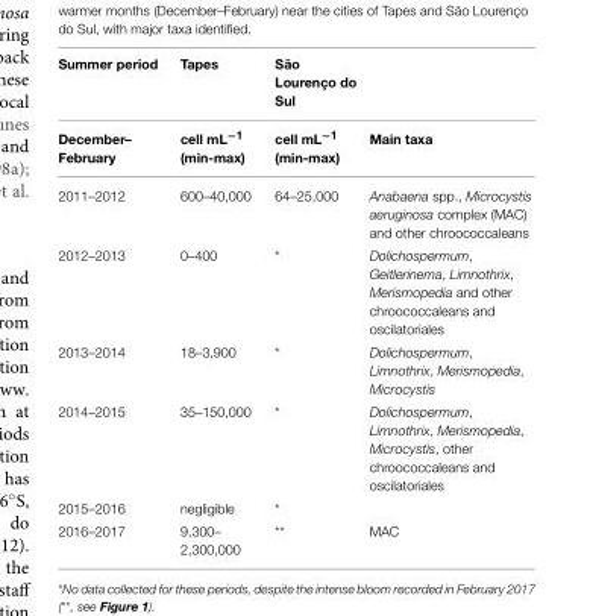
<table><thead><tr><td>Summer period</td><td>Tapes</td><td>São Lourenço do Sul</td><td></td></tr></thead><tbody><tr><td>December– February</td><td>cell mL<sup>−1</sup> (min-max)</td><td>cell mL<sup>−1</sup> (min-max)</td><td>Main taxa</td></tr><tr><td>2011–2012</td><td>600–40,000</td><td>64–25,000</td><td>Anabaena spp., Microcystis aeruginosa complex (MAC) and other chroococcaleans</td></tr><tr><td>2012–2013</td><td>0–400</td><td>*</td><td>Dolichospermum, Geitlerinema, Limnothrix, Merismopedia and other chroococcaleans and oscilatoriales</td></tr><tr><td>2013–2014</td><td>18–3,900</td><td>*</td><td>Dolichospermum, Limnothrix, Merismopedia, Microcystis</td></tr><tr><td>2014–2015</td><td>35–150,000</td><td>*</td><td>Dolichospermum, Limnothrix, Merismopedia, Microcystis, other chroococcaleans and oscilatoriales</td></tr><tr><td>2015–2016</td><td>negligible</td><td>*</td><td></td></tr><tr><td>2016–2017</td><td>9,300– 2,300,000</td><td>**</td><td>MAC</td></tr></tbody></table>